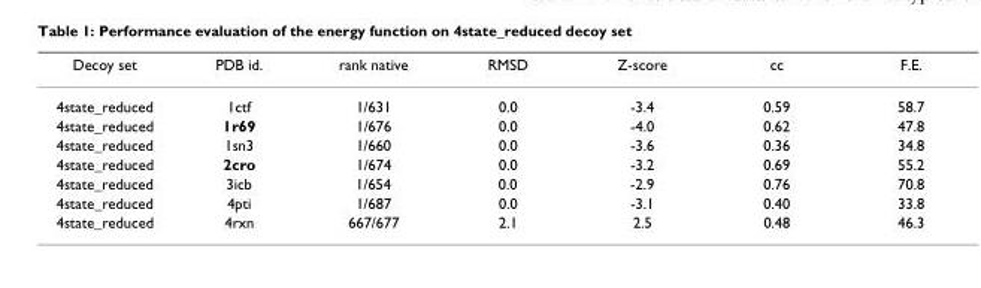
<table><thead><tr><td>Decoy set</td><td>PDB id.</td><td>rank native</td><td>RMSD</td><td>Z-score</td><td>cc</td><td>F.E.</td></tr></thead><tbody><tr><td>4state_reduced</td><td>1ctf</td><td>1/631</td><td>0.0</td><td>-3.4</td><td>0.59</td><td>58.7</td></tr><tr><td>4state_reduced</td><td>1r69</td><td>1/676</td><td>0.0</td><td>-4.0</td><td>0.62</td><td>47.8</td></tr><tr><td>4state_reduced</td><td>1sn3</td><td>1/660</td><td>0.0</td><td>-3.6</td><td>0.36</td><td>34.8</td></tr><tr><td>4state_reduced</td><td>2cro</td><td>1/674</td><td>0.0</td><td>-3.2</td><td>0.69</td><td>55.2</td></tr><tr><td>4state_reduced</td><td>3icb</td><td>1/654</td><td>0.0</td><td>-2.9</td><td>0.76</td><td>70.8</td></tr><tr><td>4state_reduced</td><td>4pti</td><td>1/687</td><td>0.0</td><td>-3.1</td><td>0.40</td><td>33.8</td></tr><tr><td>4state_reduced</td><td>4rxn</td><td>667/677</td><td>2.1</td><td>2.5</td><td>0.48</td><td>46.3</td></tr></tbody></table>